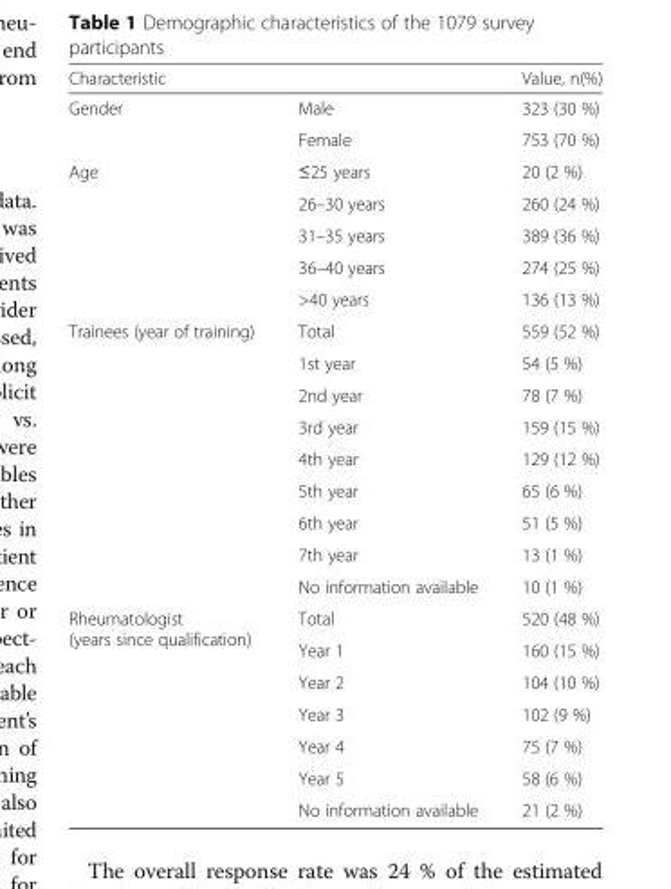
<table><thead><tr><td>Characteristic</td><td></td><td>Value, n(%)</td></tr></thead><tbody><tr><td rowspan="2">Gender</td><td>Male</td><td>323 (30 %)</td></tr><tr><td>Female</td><td>753 (70 %)</td></tr><tr><td rowspan="5">Age</td><td>≤25 years</td><td>20 (2 %)</td></tr><tr><td>26–30 years</td><td>260 (24 %)</td></tr><tr><td>31–35 years</td><td>389 (36 %)</td></tr><tr><td>36–40 years</td><td>274 (25 %)</td></tr><tr><td>&gt;40 years</td><td>136 (13 %)</td></tr><tr><td rowspan="9">Trainees (year of training)</td><td>Total</td><td>559 (52 %)</td></tr><tr><td>1st year</td><td>54 (5 %)</td></tr><tr><td>2nd year</td><td>78 (7 %)</td></tr><tr><td>3rd year</td><td>159 (15 %)</td></tr><tr><td>4th year</td><td>129 (12 %)</td></tr><tr><td>5th year</td><td>65 (6 %)</td></tr><tr><td>6th year</td><td>51 (5 %)</td></tr><tr><td>7th year</td><td>13 (1 %)</td></tr><tr><td>No information available</td><td>10 (1 %)</td></tr><tr><td rowspan="7">Rheumatologist (years since qualification)</td><td>Total</td><td>520 (48 %)</td></tr><tr><td>Year 1</td><td>160 (15 %)</td></tr><tr><td>Year 2</td><td>104 (10 %)</td></tr><tr><td>Year 3</td><td>102 (9 %)</td></tr><tr><td>Year 4</td><td>75 (7 %)</td></tr><tr><td>Year 5</td><td>58 (6 %)</td></tr><tr><td>No information available</td><td>21 (2 %)</td></tr></tbody></table>